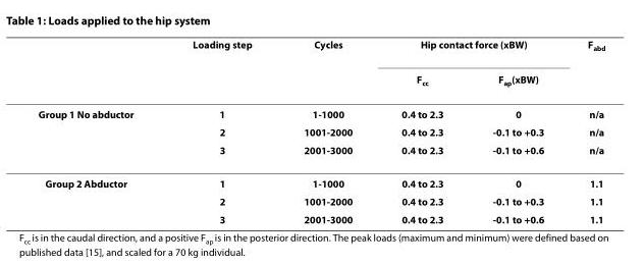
<table><thead><tr><td rowspan="2"></td><td rowspan="2">Loading step</td><td rowspan="2">Cycles</td><td colspan="2">Hip contact force (xBW)</td><td rowspan="2">F<sub>abd</sub></td></tr><tr><td>F<sub>cc</sub></td><td>F<sub>ap</sub>(xBW)</td></tr></thead><tbody><tr><td rowspan="3">Group 1 No abductor</td><td>1</td><td>1-1000</td><td>0.4 to 2.3</td><td>0</td><td>n/a</td></tr><tr><td>2</td><td>1001-2000</td><td>0.4 to 2.3</td><td>-0.1 to +0.3</td><td>n/a</td></tr><tr><td>3</td><td>2001-3000</td><td>0.4 to 2.3</td><td>-0.1 to +0.6</td><td>n/a</td></tr><tr><td rowspan="3">Group 2 Abductor</td><td>1</td><td>1-1000</td><td>0.4 to 2.3</td><td>0</td><td>1.1</td></tr><tr><td>2</td><td>1001-2000</td><td>0.4 to 2.3</td><td>-0.1 to +0.3</td><td>1.1</td></tr><tr><td>3</td><td>2001-3000</td><td>0.4 to 2.3</td><td>-0.1 to +0.6</td><td>1.1</td></tr></tbody></table>